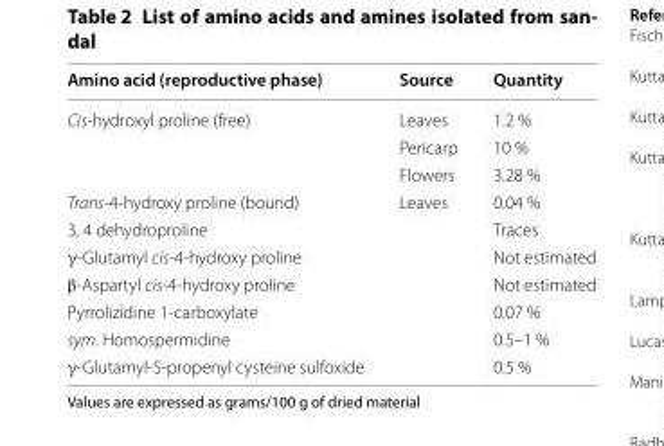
<table><thead><tr><td>Amino acid (reproductive phase)</td><td>Source</td><td>Quantity</td></tr></thead><tbody><tr><td rowspan="3">Cis-hydroxyl proline (free)</td><td>Leaves</td><td>1.2 %</td></tr><tr><td>Pericarp</td><td>10 %</td></tr><tr><td>Flowers</td><td>3.28 %</td></tr><tr><td>Trans-4-hydroxy proline (bound)</td><td>Leaves</td><td>0.04 %</td></tr><tr><td>3, 4 dehydroproline</td><td></td><td>Traces</td></tr><tr><td>γ-Glutamyl cis-4-hydroxy proline</td><td></td><td>Not estimated</td></tr><tr><td>β-Aspartyl cis-4-hydroxy proline</td><td></td><td>Not estimated</td></tr><tr><td>Pyrrolizidine 1-carboxylate</td><td></td><td>0.07 %</td></tr><tr><td>sym. Homospermidine</td><td></td><td>0.5–1 %</td></tr><tr><td>γ-Glutamyl-S-propenyl cysteine sulfoxide</td><td></td><td>0.5 %</td></tr></tbody></table>